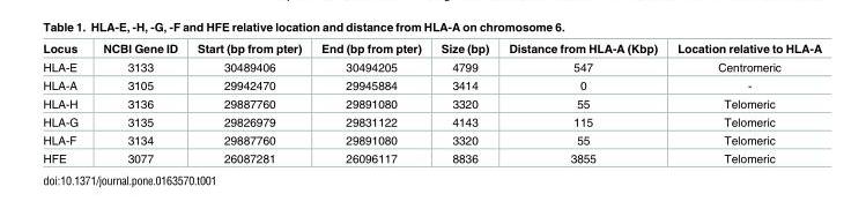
<table><thead><tr><td>Locus</td><td>NCBI Gene ID</td><td>Start (bp from pter)</td><td>End (bp from pter)</td><td>Size (bp)</td><td>Distance from HLA-A (Kbp)</td><td>Location relative to HLA-A</td></tr></thead><tbody><tr><td>HLA-E</td><td>3133</td><td>30489406</td><td>30494205</td><td>4799</td><td>547</td><td>Centromeric</td></tr><tr><td>HLA-A</td><td>3105</td><td>29942470</td><td>29945884</td><td>3414</td><td>0</td><td>-</td></tr><tr><td>HLA-H</td><td>3136</td><td>29887760</td><td>29891080</td><td>3320</td><td>55</td><td>Telomeric</td></tr><tr><td>HLA-G</td><td>3135</td><td>29826979</td><td>29831122</td><td>4143</td><td>115</td><td>Telomeric</td></tr><tr><td>HLA-F</td><td>3134</td><td>29887760</td><td>29891080</td><td>3320</td><td>55</td><td>Telomeric</td></tr><tr><td>HFE</td><td>3077</td><td>26087281</td><td>26096117</td><td>8836</td><td>3855</td><td>Telomeric</td></tr></tbody></table>